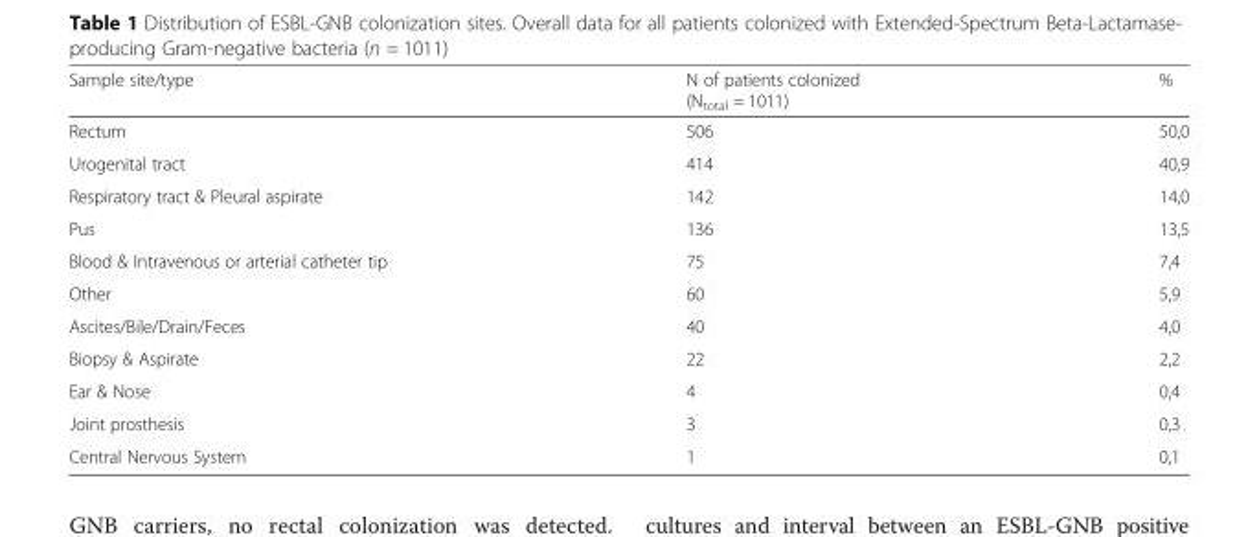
<table><thead><tr><td>Sample site/type</td><td>N of patients colonized (N<sub>total</sub> = 1011)</td><td>%</td></tr></thead><tbody><tr><td>Rectum</td><td>506</td><td>50,0</td></tr><tr><td>Urogenital tract</td><td>414</td><td>40,9</td></tr><tr><td>Respiratory tract &amp; Pleural aspirate</td><td>142</td><td>14,0</td></tr><tr><td>Pus</td><td>136</td><td>13,5</td></tr><tr><td>Blood &amp; Intravenous or arterial catheter tip</td><td>75</td><td>7,4</td></tr><tr><td>Other</td><td>60</td><td>5,9</td></tr><tr><td>Ascites/Bile/Drain/Feces</td><td>40</td><td>4,0</td></tr><tr><td>Biopsy &amp; Aspirate</td><td>22</td><td>2,2</td></tr><tr><td>Ear &amp; Nose</td><td>4</td><td>0,4</td></tr><tr><td>Joint prosthesis</td><td>3</td><td>0,3</td></tr><tr><td>Central Nervous System</td><td>1</td><td>0,1</td></tr></tbody></table>